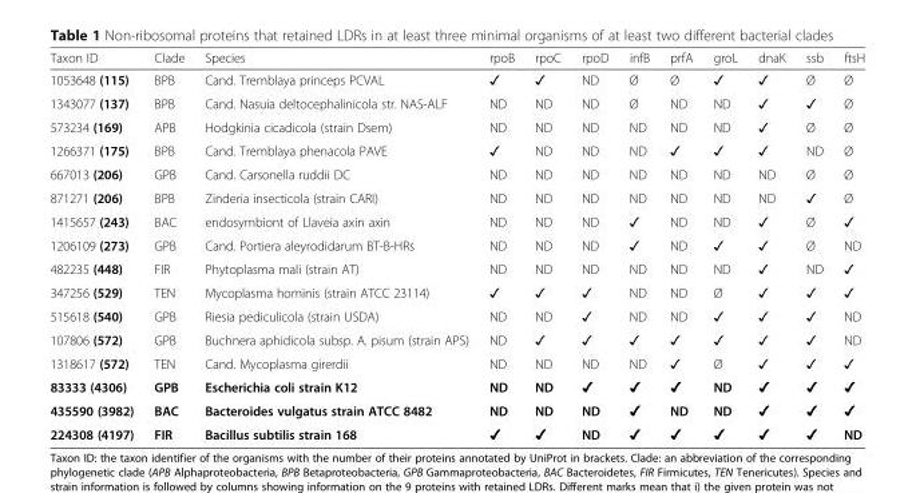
<table><thead><tr><td>Taxon ID</td><td>Clade</td><td>Species</td><td>rpoB</td><td>rpoC</td><td>rpoD</td><td>infB</td><td>prfA</td><td>groL</td><td>dnaK</td><td>ssb</td><td>ftsH</td></tr></thead><tbody><tr><td>1053648 (115)</td><td>BPB</td><td>Cand. Tremblaya princeps PCVAL</td><td>✓</td><td>✓</td><td>ND</td><td>Ø</td><td>Ø</td><td>✓</td><td>✓</td><td>Ø</td><td>Ø</td></tr><tr><td>1343077 (137)</td><td>BPB</td><td>Cand. Nasuia deltocephalinicola str. NAS-ALF</td><td>ND</td><td>ND</td><td>ND</td><td>Ø</td><td>ND</td><td>ND</td><td>✓</td><td>✓</td><td>Ø</td></tr><tr><td>573234 (169)</td><td>APB</td><td>Hodgkinia cicadicola (strain Dsem)</td><td>ND</td><td>ND</td><td>ND</td><td>ND</td><td>ND</td><td>ND</td><td>✓</td><td>Ø</td><td>Ø</td></tr><tr><td>1266371 (175)</td><td>BPB</td><td>Cand. Tremblaya phenacola PAVE</td><td>✓</td><td>ND</td><td>ND</td><td>ND</td><td>✓</td><td>✓</td><td>✓</td><td>ND</td><td>Ø</td></tr><tr><td>667013 (206)</td><td>GPB</td><td>Cand. Carsonella ruddii DC</td><td>ND</td><td>ND</td><td>ND</td><td>ND</td><td>ND</td><td>ND</td><td>ND</td><td>Ø</td><td>Ø</td></tr><tr><td>871271 (206)</td><td>BPB</td><td>Zinderia insecticola (strain CARI)</td><td>ND</td><td>ND</td><td>ND</td><td>ND</td><td>ND</td><td>ND</td><td>ND</td><td>✓</td><td>Ø</td></tr><tr><td>1415657 (243)</td><td>BAC</td><td>endosymbiont of Llaveia axin axin</td><td>ND</td><td>ND</td><td>ND</td><td>✓</td><td>ND</td><td>ND</td><td>✓</td><td>Ø</td><td>✓</td></tr><tr><td>1206109 (273)</td><td>GPB</td><td>Cand. Portiera aleyrodidarum BT-B-HRs</td><td>ND</td><td>ND</td><td>ND</td><td>✓</td><td>ND</td><td>✓</td><td>✓</td><td>Ø</td><td>ND</td></tr><tr><td>482235 (448)</td><td>FIR</td><td>Phytoplasma mali (strain AT)</td><td>ND</td><td>ND</td><td>ND</td><td>ND</td><td>ND</td><td>ND</td><td>✓</td><td>ND</td><td>✓</td></tr><tr><td>347256 (529)</td><td>TEN</td><td>Mycoplasma hominis (strain ATCC 23114)</td><td>✓</td><td>✓</td><td>✓</td><td>ND</td><td>ND</td><td>Ø</td><td>✓</td><td>✓</td><td>✓</td></tr><tr><td>515618 (540)</td><td>GPB</td><td>Riesia pediculicola (strain USDA)</td><td>ND</td><td>ND</td><td>✓</td><td>ND</td><td>ND</td><td>✓</td><td>✓</td><td>✓</td><td>ND</td></tr><tr><td>107806 (572)</td><td>GPB</td><td>Buchnera aphidicola subsp. A. pisum (strain APS)</td><td>ND</td><td>✓</td><td>✓</td><td>✓</td><td>✓</td><td>✓</td><td>✓</td><td>✓</td><td>ND</td></tr><tr><td>1318617 (572)</td><td>TEN</td><td>Cand. Mycoplasma girerdii</td><td>ND</td><td>ND</td><td>ND</td><td>ND</td><td>✓</td><td>Ø</td><td>✓</td><td>✓</td><td>✓</td></tr><tr><td>83333 (4306)</td><td>GPB</td><td>Escherichia coli strain K12</td><td>ND</td><td>ND</td><td>✔</td><td>✔</td><td>✔</td><td>ND</td><td>✔</td><td>✔</td><td>✔</td></tr><tr><td>435590 (3982)</td><td>BAC</td><td>Bacteroides vulgatus strain ATCC 8482</td><td>ND</td><td>ND</td><td>ND</td><td>✔</td><td>ND</td><td>ND</td><td>✔</td><td>✔</td><td>✔</td></tr><tr><td>224308 (4197)</td><td>FIR</td><td>Bacillus subtilis strain 168</td><td>✔</td><td>✔</td><td>ND</td><td>✔</td><td>✔</td><td>✔</td><td>✔</td><td>✔</td><td>ND</td></tr></tbody></table>